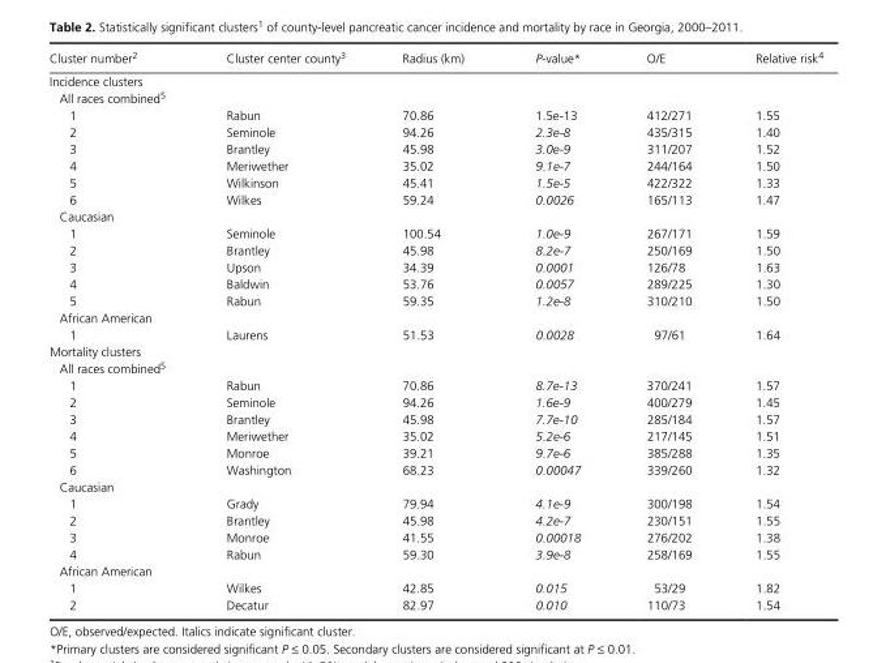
<table><thead><tr><td>Cluster number2</td><td>Cluster center county3</td><td>Radius (km)</td><td>P- value*</td><td>O/E</td><td>Relative risk4</td></tr></thead><tbody><tr><td colspan="6">Incidence clusters</td></tr><tr><td colspan="6">All races combined5</td></tr><tr><td>1</td><td>Rabun</td><td>70.86</td><td>1.5e- 13</td><td>412/271</td><td>1.55</td></tr><tr><td>2</td><td>Seminole</td><td>94.26</td><td>2.3e-8</td><td>435/315</td><td>1.40</td></tr><tr><td>3</td><td>Brantley</td><td>45.98</td><td>3.0e-9</td><td>311/207</td><td>1.52</td></tr><tr><td>4</td><td>Meriwether</td><td>35.02</td><td>9.1e-7</td><td>244/164</td><td>1.50</td></tr><tr><td>5</td><td>Wilkinson</td><td>45.41</td><td>1.5e-5</td><td>422/322</td><td>1.33</td></tr><tr><td>6</td><td>Wilkes</td><td>59.24</td><td>0.0026</td><td>165/113</td><td>1.47</td></tr><tr><td colspan="6">Caucasian</td></tr><tr><td>1</td><td>Seminole</td><td>100.54</td><td>1.0e-9</td><td>267/171</td><td>1.59</td></tr><tr><td>2</td><td>Brantley</td><td>45.98</td><td>8.2e-7</td><td>250/169</td><td>1.50</td></tr><tr><td>3</td><td>Upson</td><td>34.39</td><td>0.0001</td><td>126/78</td><td>1.63</td></tr><tr><td>4</td><td>Baldwin</td><td>53.76</td><td>0.0057</td><td>289/225</td><td>1.30</td></tr><tr><td>5</td><td>Rabun</td><td>59.35</td><td>1.2e-8</td><td>310/210</td><td>1.50</td></tr><tr><td colspan="6">African American</td></tr><tr><td>1</td><td>Laurens</td><td>51.53</td><td>0.0028</td><td>97/61</td><td>1.64</td></tr><tr><td colspan="6">Mortality clusters</td></tr><tr><td colspan="6">All races combined5</td></tr><tr><td>1</td><td>Rabun</td><td>70.86</td><td>8.7e-13</td><td>370/241</td><td>1.57</td></tr><tr><td>2</td><td>Seminole</td><td>94.26</td><td>1.6e-9</td><td>400/279</td><td>1.45</td></tr><tr><td>3</td><td>Brantley</td><td>45.98</td><td>7.7e-10</td><td>285/184</td><td>1.57</td></tr><tr><td>4</td><td>Meriwether</td><td>35.02</td><td>5.2e-6</td><td>217/145</td><td>1.51</td></tr><tr><td>5</td><td>Monroe</td><td>39.21</td><td>9.7e-6</td><td>385/288</td><td>1.35</td></tr><tr><td>6</td><td>Washington</td><td>68.23</td><td>0.00047</td><td>339/260</td><td>1.32</td></tr><tr><td colspan="6">Caucasian</td></tr><tr><td>1</td><td>Grady</td><td>79.94</td><td>4.1e-9</td><td>300/198</td><td>1.54</td></tr><tr><td>2</td><td>Brantley</td><td>45.98</td><td>4.2e-7</td><td>230/151</td><td>1.55</td></tr><tr><td>3</td><td>Monroe</td><td>41.55</td><td>0.00018</td><td>276/202</td><td>1.38</td></tr><tr><td>4</td><td>Rabun</td><td>59.30</td><td>3.9e-8</td><td>258/169</td><td>1.55</td></tr><tr><td colspan="6">African American</td></tr><tr><td>1</td><td>Wilkes</td><td>42.85</td><td>0.015</td><td>53/29</td><td>1.82</td></tr><tr><td>2</td><td>Decatur</td><td>82.97</td><td>0.010</td><td>110/73</td><td>1.54</td></tr></tbody></table>